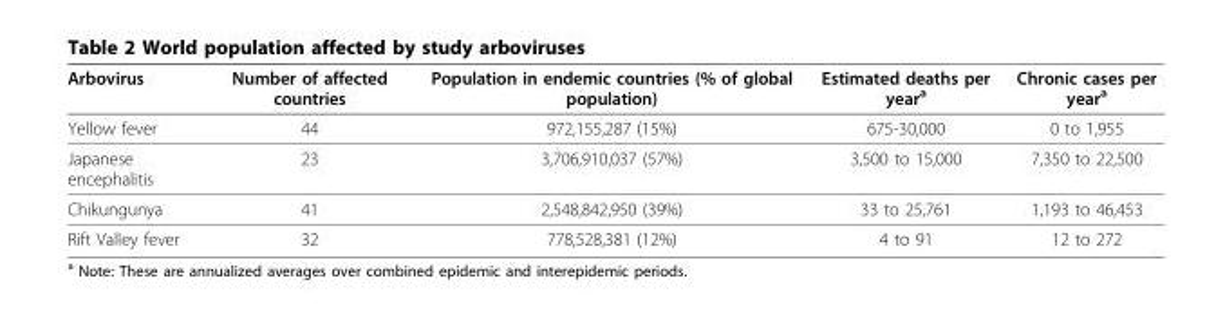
<table><thead><tr><td>Arbovirus</td><td>Number of affected countries</td><td>Population in endemic countries (% of global population)</td><td>Estimated deaths per year<sup>a</sup></td><td>Chronic cases per year<sup>a</sup></td></tr></thead><tbody><tr><td>Yellow fever</td><td>44</td><td>972,155,287 (15%)</td><td>675-30,000</td><td>0 to 1,955</td></tr><tr><td>Japanese encephalitis</td><td>23</td><td>3,706,910,037 (57%)</td><td>3,500 to 15,000</td><td>7,350 to 22,500</td></tr><tr><td>Chikungunya</td><td>41</td><td>2,548,842,950 (39%)</td><td>33 to 25,761</td><td>1,193 to 46,453</td></tr><tr><td>Rift Valley fever</td><td>32</td><td>778,528,381 (12%)</td><td>4 to 91</td><td>12 to 272</td></tr></tbody></table>